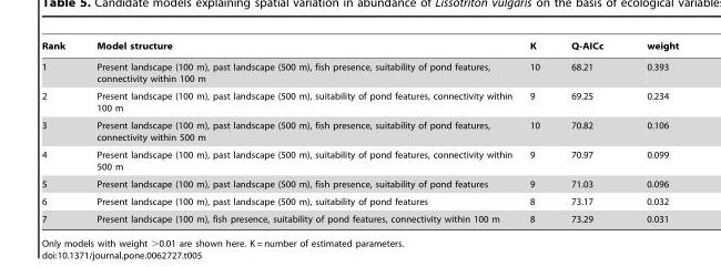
<table><thead><tr><td>Rank</td><td>Model structure</td><td>K</td><td>Q-AICc</td><td>weight</td></tr></thead><tbody><tr><td>1</td><td>Present landscape (100 m), past landscape (500 m), fish presence, suitability of pond features, connectivity within 100 m</td><td>10</td><td>68.21</td><td>0.393</td></tr><tr><td>2</td><td>Present landscape (100 m), past landscape (500 m), suitability of pond features, connectivity within 100 m</td><td>9</td><td>69.25</td><td>0.234</td></tr><tr><td>3</td><td>Present landscape (100 m), past landscape (500 m), fish presence, suitability of pond features, connectivity within 500 m</td><td>10</td><td>70.82</td><td>0.106</td></tr><tr><td>4</td><td>Present landscape (100 m), past landscape (500 m), suitability of pond features, connectivity within 500 m</td><td>9</td><td>70.97</td><td>0.099</td></tr><tr><td>5</td><td>Present landscape (100 m), past landscape (500 m), fish presence, suitability of pond features</td><td>9</td><td>71.03</td><td>0.096</td></tr><tr><td>6</td><td>Present landscape (100 m), past landscape (500 m), suitability of pond features</td><td>8</td><td>73.17</td><td>0.032</td></tr><tr><td>7</td><td>Present landscape (100 m), fish presence, suitability of pond features, connectivity within 100 m</td><td>8</td><td>73.29</td><td>0.031</td></tr></tbody></table>